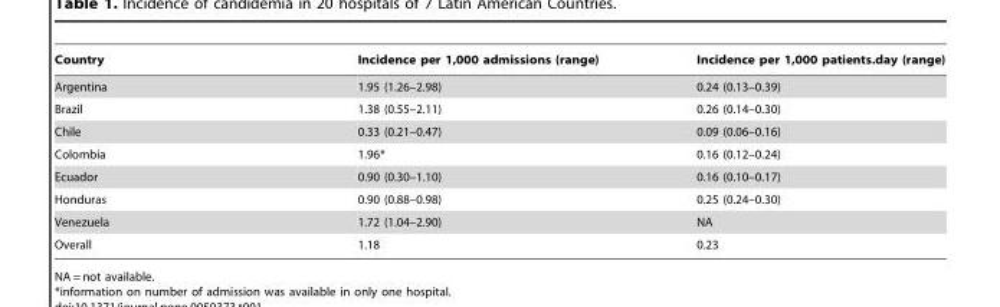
<table><thead><tr><td>Country</td><td>Incidence per 1,000 admissions (range)</td><td>Incidence per 1,000 patients.day (range)</td></tr></thead><tbody><tr><td>Argentina</td><td>1.95 (1.26–2.98)</td><td>0.24 (0.13–0.39)</td></tr><tr><td>Brazil</td><td>1.38 (0.55–2.11)</td><td>0.26 (0.14–0.30)</td></tr><tr><td>Chile</td><td>0.33 (0.21–0.47)</td><td>0.09 (0.06–0.16)</td></tr><tr><td>Colombia</td><td>1.96*</td><td>0.16 (0.12–0.24)</td></tr><tr><td>Ecuador</td><td>0.90 (0.30–1.10)</td><td>0.16 (0.10–0.17)</td></tr><tr><td>Honduras</td><td>0.90 (0.88–0.98)</td><td>0.25 (0.24–0.30)</td></tr><tr><td>Venezuela</td><td>1.72 (1.04–2.90)</td><td>NA</td></tr><tr><td>Overall</td><td>1.18</td><td>0.23</td></tr></tbody></table>